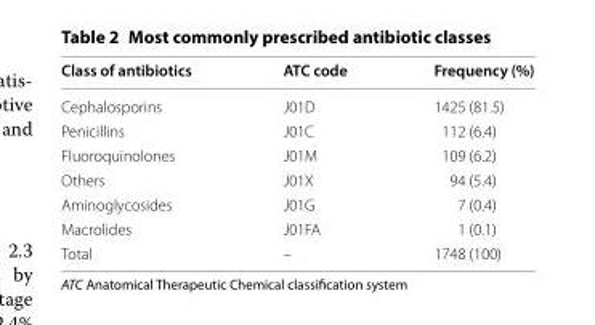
<table><thead><tr><td>Class of antibiotics</td><td>ATC code</td><td>Frequency (%)</td></tr></thead><tbody><tr><td>Cephalosporins</td><td>J01D</td><td>1425 (81.5)</td></tr><tr><td>Penicillins</td><td>J01C</td><td>112 (6.4)</td></tr><tr><td>Fluoroquinolones</td><td>J01M</td><td>109 (6.2)</td></tr><tr><td>Others</td><td>J01X</td><td>94 (5.4)</td></tr><tr><td>Aminoglycosides</td><td>J01G</td><td>7 (0.4)</td></tr><tr><td>Macrolides</td><td>J01FA</td><td>1 (0.1)</td></tr><tr><td>Total</td><td>–</td><td>1748 (100)</td></tr></tbody></table>